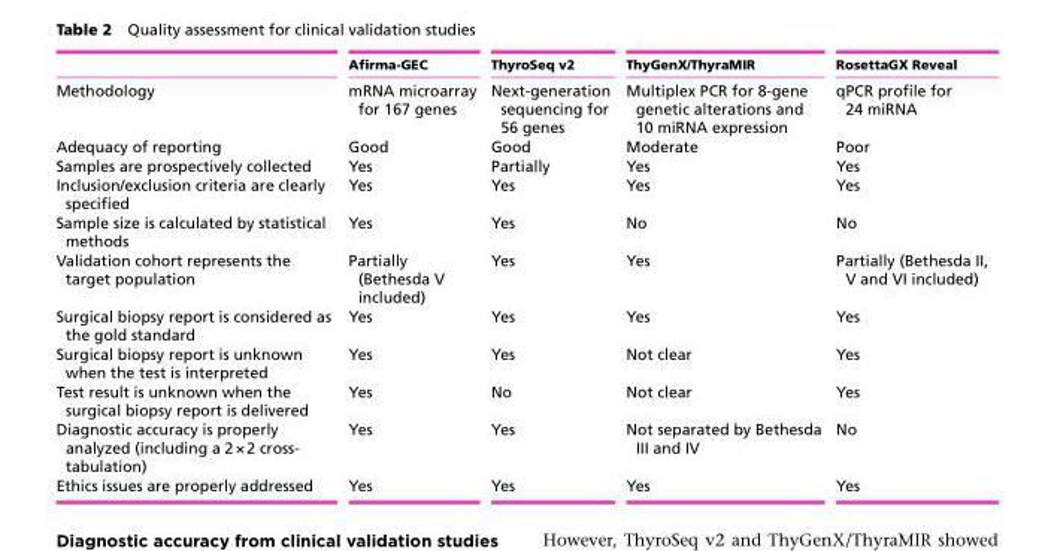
<table><thead><tr><td></td><td>Afirma-GEC</td><td>ThyroSeq v2</td><td>ThyGenX/ThyraMIR</td><td>RosettaGX Reveal</td></tr></thead><tbody><tr><td>Methodology</td><td>mRNA microarray for 167 genes</td><td>Next-generation sequencing for 56 genes</td><td>Multiplex PCR for 8-gene genetic alterations and 10 miRNA expression</td><td>qPCR profile for 24 miRNA</td></tr><tr><td>Adequacy of reporting</td><td>Good</td><td>Good</td><td>Moderate</td><td>Poor</td></tr><tr><td>Samples are prospectively collected</td><td>Yes</td><td>Partially</td><td>Yes</td><td>Yes</td></tr><tr><td>Inclusion/exclusion criteria are clearly specified</td><td>Yes</td><td>Yes</td><td>Yes</td><td>Yes</td></tr><tr><td>Sample size is calculated by statistical methods</td><td>Yes</td><td>Yes</td><td>No</td><td>No</td></tr><tr><td>Validation cohort represents the target population</td><td>Partially (Bethesda V included)</td><td>Yes</td><td>Yes</td><td>Partially (Bethesda II, V and VI included)</td></tr><tr><td>Surgical biopsy report is considered as the gold standard</td><td>Yes</td><td>Yes</td><td>Yes</td><td>Yes</td></tr><tr><td>Surgical biopsy report is unknown when the test is interpreted</td><td>Yes</td><td>Yes</td><td>Not clear</td><td>Yes</td></tr><tr><td>Test result is unknown when the surgical biopsy report is delivered</td><td>Yes</td><td>No</td><td>Not clear</td><td>Yes</td></tr><tr><td>Diagnostic accuracy is properly analyzed (including a 2 × 2 cross- tabulation)</td><td>Yes</td><td>Yes</td><td>Not separated by Bethesda III and IV</td><td>No</td></tr><tr><td>Ethics issues are properly addressed</td><td>Yes</td><td>Yes</td><td>Yes</td><td>Yes</td></tr></tbody></table>